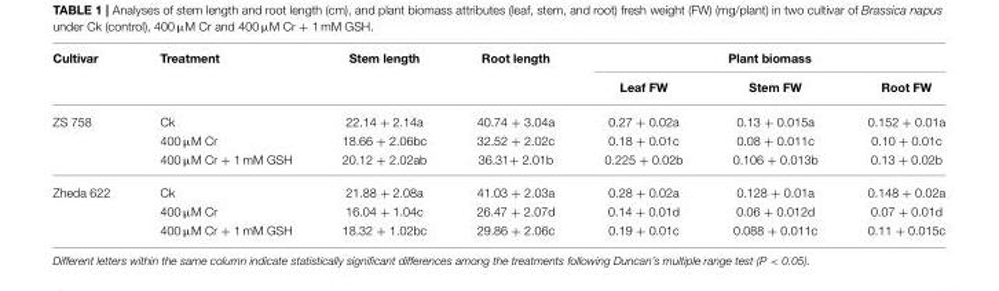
<table><thead><tr><td rowspan="2">Cultivar</td><td rowspan="2">Treatment</td><td rowspan="2">Stem length</td><td rowspan="2">Root length</td><td colspan="3">Plant biomass</td></tr><tr><td>Leaf FW</td><td>Stem FW</td><td>Root FW</td></tr></thead><tbody><tr><td rowspan="3">ZS 758</td><td>Ck</td><td>22.14 + 2.14a</td><td>40.74 + 3.04a</td><td>0.27 + 0.02a</td><td>0.13 + 0.015a</td><td>0.152 + 0.01a</td></tr><tr><td>400 µM Cr</td><td>18.66 + 2.06bc</td><td>32.52 + 2.02c</td><td>0.18 + 0.01c</td><td>0.08 + 0.011c</td><td>0.10 + 0.01c</td></tr><tr><td>400 µM Cr + 1 mM GSH</td><td>20.12 + 2.02ab</td><td>36.31+ 2.01b</td><td>0.225 + 0.02b</td><td>0.106 + 0.013b</td><td>0.13 + 0.02b</td></tr><tr><td rowspan="3">Zheda 622</td><td>Ck</td><td>21.88 + 2.08a</td><td>41.03 + 2.03a</td><td>0.28 + 0.02a</td><td>0.128 + 0.01a</td><td>0.148 + 0.02a</td></tr><tr><td>400 µM Cr</td><td>16.04 + 1.04c</td><td>26.47 + 2.07d</td><td>0.14 + 0.01d</td><td>0.06 + 0.012d</td><td>0.07 + 0.01d</td></tr><tr><td>400 µM Cr + 1 mM GSH</td><td>18.32 + 1.02bc</td><td>29.86 + 2.06c</td><td>0.19 + 0.01c</td><td>0.088 + 0.011c</td><td>0.11 + 0.015c</td></tr></tbody></table>